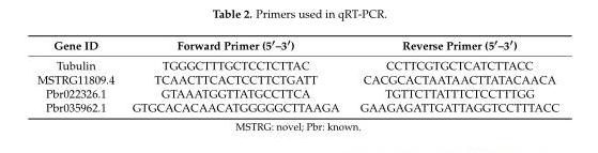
<table><thead><tr><td>Gene ID</td><td>Forward Primer (5′–3′)</td><td>Reverse Primer (5′–3′)</td></tr></thead><tbody><tr><td>Tubulin</td><td>TGGGCTTTGCTCCTCTTAC</td><td>CCTTCGTGCTCATCTTACC</td></tr><tr><td>MSTRG11809.4</td><td>TCAACTTCACTCCTTCTGATT</td><td>CACGCACTAATAACTTATACAACA</td></tr><tr><td>Pbr022326.1</td><td>GTAAATGGTTATGCCTTCA</td><td>TGTTCTTATTTCTCCTTTGG</td></tr><tr><td>Pbr035962.1</td><td>GTGCACACAACATGGGGGCTTAAGA</td><td>GAAGAGATTGATTAGGTCCTTTACC</td></tr></tbody></table>